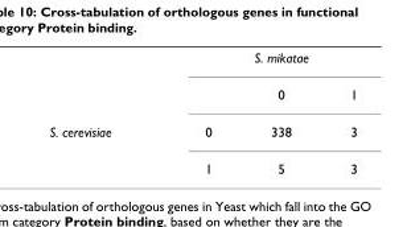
<table><thead><tr><td rowspan="2"></td><td colspan="3">S. mikatae</td></tr><tr><td></td><td>0</td><td>1</td></tr></thead><tbody><tr><td rowspan="2">S. cerevisiae</td><td>0</td><td>338</td><td>3</td></tr><tr><td>1</td><td>5</td><td>3</td></tr></tbody></table>